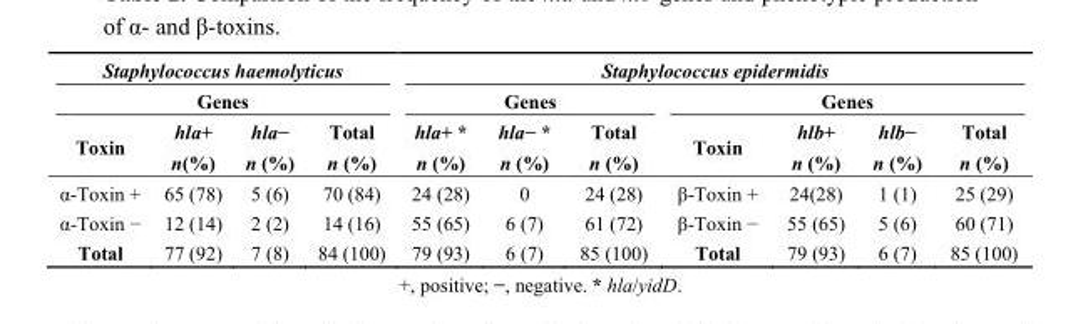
<table><thead><tr><td rowspan="2" colspan="4">Staphylococcus haemolyticus Genes</td><td colspan="7">Staphylococcus epidermidis</td></tr><tr><td colspan="3">Genes</td><td colspan="4">Genes</td></tr><tr><td rowspan="2">Toxin</td><td rowspan="2">hla+ n(%)</td><td rowspan="2">hla− n (%)</td><td rowspan="2">Total n (%)</td><td rowspan="2">hla+ * n (%)</td><td rowspan="2">hla− * n (%)</td><td rowspan="2">Total n (%)</td><td rowspan="2">Toxin</td><td rowspan="2">hlb+ n (%)</td><td rowspan="2">hlb− n (%)</td><td rowspan="2">Total n (%)</td></tr><tr></tr></thead><tbody><tr><td>α-Toxin +</td><td>65 (78)</td><td>5 (6)</td><td>70 (84)</td><td>24 (28)</td><td>0</td><td>24 (28)</td><td>β-Toxin +</td><td>24(28)</td><td>1 (1)</td><td>25 (29)</td></tr><tr><td>α-Toxin −</td><td>12 (14)</td><td>2 (2)</td><td>14 (16)</td><td>55 (65)</td><td>6 (7)</td><td>61 (72)</td><td>β-Toxin −</td><td>55 (65)</td><td>5 (6)</td><td>60 (71)</td></tr><tr><td>Total</td><td>77 (92)</td><td>7 (8)</td><td>84 (100)</td><td>79 (93)</td><td>6 (7)</td><td>85 (100)</td><td>Total</td><td>79 (93)</td><td>6 (7)</td><td>85 (100)</td></tr></tbody></table>